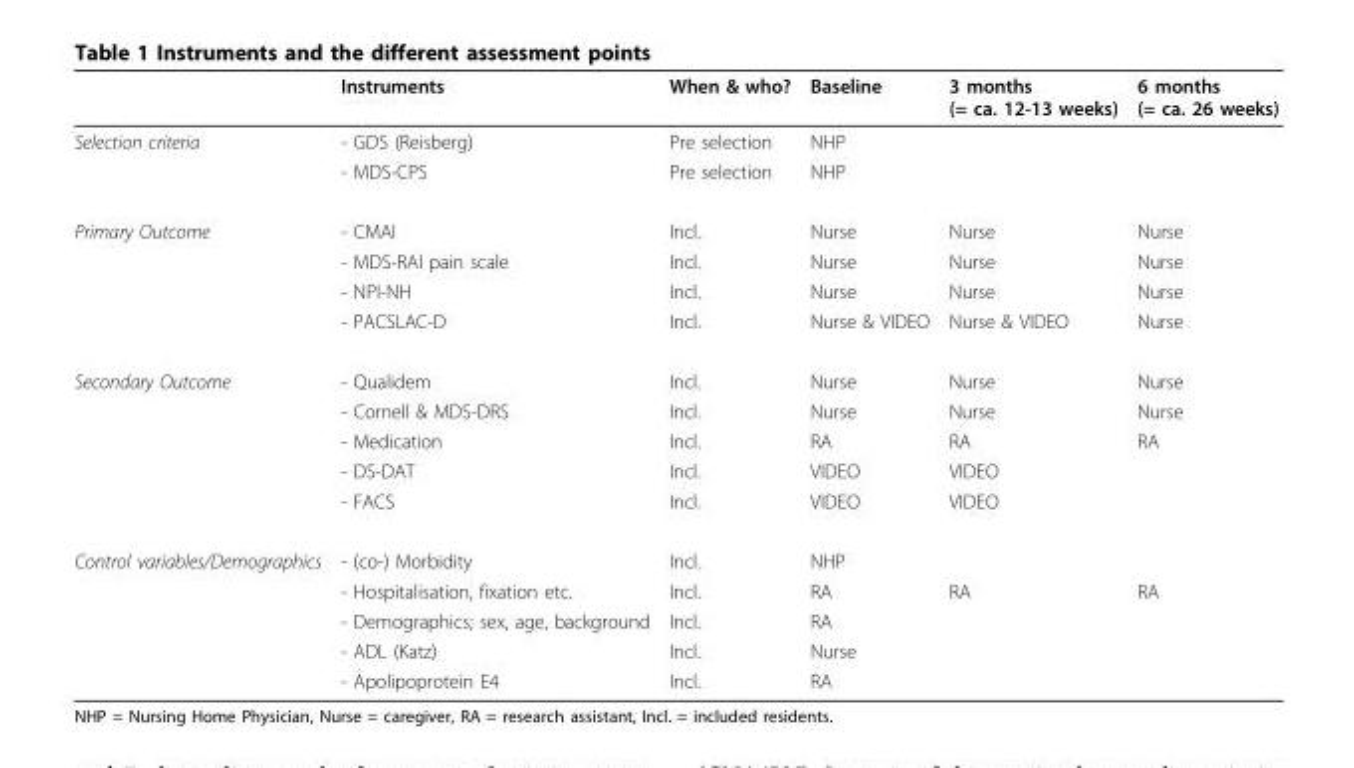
<table><thead><tr><td></td><td>Instruments</td><td>When &amp; who?</td><td>Baseline</td><td>3 months (= ca. 12-13 weeks)</td><td>6 months (= ca. 26 weeks)</td></tr></thead><tbody><tr><td rowspan="2">Selection criteria</td><td>- GDS (Reisberg)</td><td>Pre selection</td><td>NHP</td><td></td><td></td></tr><tr><td>- MDS-CPS</td><td>Pre selection</td><td>NHP</td><td></td><td></td></tr><tr><td rowspan="4">Primary Outcome</td><td>- CMAI</td><td>Incl.</td><td>Nurse</td><td>Nurse</td><td>Nurse</td></tr><tr><td>- MDS-RAI pain scale</td><td>Incl.</td><td>Nurse</td><td>Nurse</td><td>Nurse</td></tr><tr><td>- NPI-NH</td><td>Incl.</td><td>Nurse</td><td>Nurse</td><td>Nurse</td></tr><tr><td>- PACSLAC-D</td><td>Incl.</td><td>Nurse &amp; VIDEO</td><td>Nurse &amp; VIDEO</td><td>Nurse</td></tr><tr><td rowspan="5">Secondary Outcome</td><td>- Qualidem</td><td>Incl.</td><td>Nurse</td><td>Nurse</td><td>Nurse</td></tr><tr><td>- Cornell &amp; MDS-DRS</td><td>Incl.</td><td>Nurse</td><td>Nurse</td><td>Nurse</td></tr><tr><td>- Medication</td><td>Incl.</td><td>RA</td><td>RA</td><td>RA</td></tr><tr><td>- DS-DAT</td><td>Incl.</td><td>VIDEO</td><td>VIDEO</td><td></td></tr><tr><td>- FACS</td><td>Incl.</td><td>VIDEO</td><td>VIDEO</td><td></td></tr><tr><td rowspan="5">Control variables/Demographics</td><td>- (co-) Morbidity</td><td>Incl.</td><td>NHP</td><td></td><td></td></tr><tr><td>- Hospitalisation, fixation etc.</td><td>Incl.</td><td>RA</td><td>RA</td><td>RA</td></tr><tr><td>- Demographics; sex, age, background</td><td>Incl.</td><td>RA</td><td></td><td></td></tr><tr><td>- ADL (Katz)</td><td>Incl.</td><td>Nurse</td><td></td><td></td></tr><tr><td>- Apolipoprotein E4</td><td>Incl.</td><td>RA</td><td></td><td></td></tr></tbody></table>